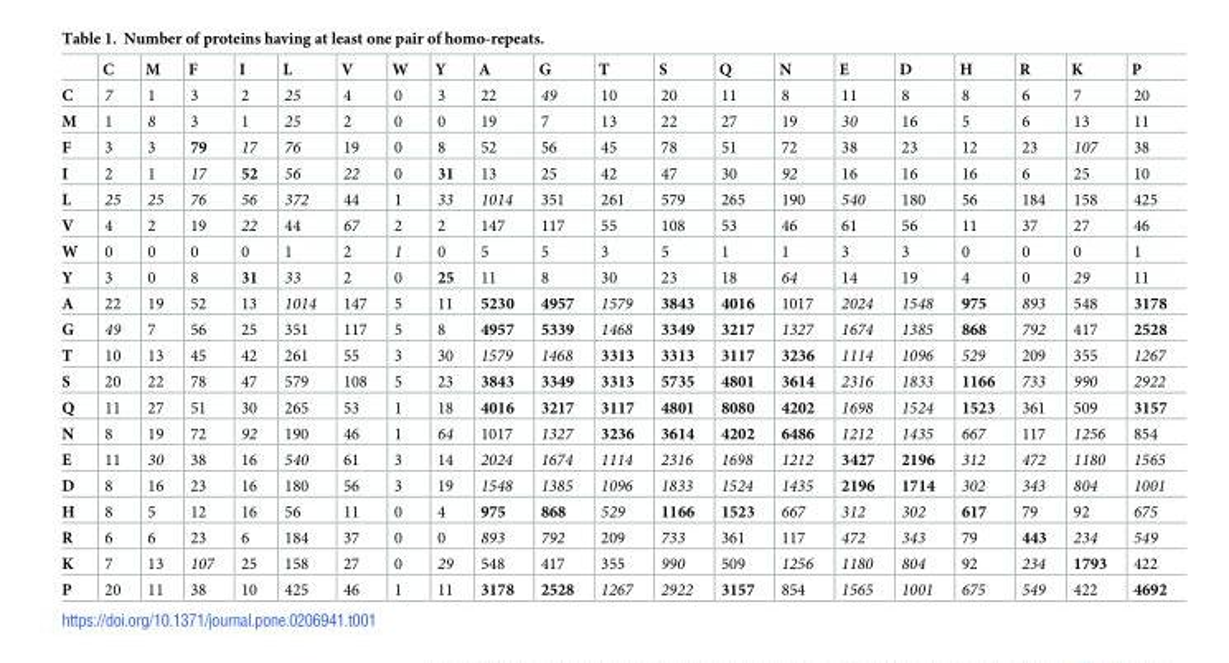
<table><thead><tr><td></td><td>C</td><td>M</td><td>F</td><td>I</td><td>L</td><td>V</td><td>W</td><td>Y</td><td>A</td><td>G</td><td>T</td><td>S</td><td>Q</td><td>N</td><td>E</td><td>D</td><td>H</td><td>R</td><td>K</td><td>P</td></tr></thead><tbody><tr><td>C</td><td>7</td><td>1</td><td>3</td><td>2</td><td>25</td><td>4</td><td>0</td><td>3</td><td>22</td><td>49</td><td>10</td><td>20</td><td>11</td><td>8</td><td>11</td><td>8</td><td>8</td><td>6</td><td>7</td><td>20</td></tr><tr><td>M</td><td>1</td><td>8</td><td>3</td><td>1</td><td>25</td><td>2</td><td>0</td><td>0</td><td>19</td><td>7</td><td>13</td><td>22</td><td>27</td><td>19</td><td>30</td><td>16</td><td>5</td><td>6</td><td>13</td><td>11</td></tr><tr><td>F</td><td>3</td><td>3</td><td>79</td><td>17</td><td>76</td><td>19</td><td>0</td><td>8</td><td>52</td><td>56</td><td>45</td><td>78</td><td>51</td><td>72</td><td>38</td><td>23</td><td>12</td><td>23</td><td>107</td><td>38</td></tr><tr><td>I</td><td>2</td><td>1</td><td>17</td><td>52</td><td>56</td><td>22</td><td>0</td><td>31</td><td>13</td><td>25</td><td>42</td><td>47</td><td>30</td><td>92</td><td>16</td><td>16</td><td>16</td><td>6</td><td>25</td><td>10</td></tr><tr><td>L</td><td>25</td><td>25</td><td>76</td><td>56</td><td>372</td><td>44</td><td>1</td><td>33</td><td>1014</td><td>351</td><td>261</td><td>579</td><td>265</td><td>190</td><td>540</td><td>180</td><td>56</td><td>184</td><td>158</td><td>425</td></tr><tr><td>V</td><td>4</td><td>2</td><td>19</td><td>22</td><td>44</td><td>67</td><td>2</td><td>2</td><td>147</td><td>117</td><td>55</td><td>108</td><td>53</td><td>46</td><td>61</td><td>56</td><td>11</td><td>37</td><td>27</td><td>46</td></tr><tr><td>W</td><td>0</td><td>0</td><td>0</td><td>0</td><td>1</td><td>2</td><td>1</td><td>0</td><td>5</td><td>5</td><td>3</td><td>5</td><td>1</td><td>1</td><td>3</td><td>3</td><td>0</td><td>0</td><td>0</td><td>1</td></tr><tr><td>Y</td><td>3</td><td>0</td><td>8</td><td>31</td><td>33</td><td>2</td><td>0</td><td>25</td><td>11</td><td>8</td><td>30</td><td>23</td><td>18</td><td>64</td><td>14</td><td>19</td><td>4</td><td>0</td><td>29</td><td>11</td></tr><tr><td>A</td><td>22</td><td>19</td><td>52</td><td>13</td><td>1014</td><td>147</td><td>5</td><td>11</td><td>5230</td><td>4957</td><td>1579</td><td>3843</td><td>4016</td><td>1017</td><td>2024</td><td>1548</td><td>975</td><td>893</td><td>548</td><td>3178</td></tr><tr><td>G</td><td>49</td><td>7</td><td>56</td><td>25</td><td>351</td><td>117</td><td>5</td><td>8</td><td>4957</td><td>5339</td><td>1468</td><td>3349</td><td>3217</td><td>1327</td><td>1674</td><td>1385</td><td>868</td><td>792</td><td>417</td><td>2528</td></tr><tr><td>T</td><td>10</td><td>13</td><td>45</td><td>42</td><td>261</td><td>55</td><td>3</td><td>30</td><td>1579</td><td>1468</td><td>3313</td><td>3313</td><td>3117</td><td>3236</td><td>1114</td><td>1096</td><td>529</td><td>209</td><td>355</td><td>1267</td></tr><tr><td>S</td><td>20</td><td>22</td><td>78</td><td>47</td><td>579</td><td>108</td><td>5</td><td>23</td><td>3843</td><td>3349</td><td>3313</td><td>5735</td><td>4801</td><td>3614</td><td>2316</td><td>1833</td><td>1166</td><td>733</td><td>990</td><td>2922</td></tr><tr><td>Q</td><td>11</td><td>27</td><td>51</td><td>30</td><td>265</td><td>53</td><td>1</td><td>18</td><td>4016</td><td>3217</td><td>3117</td><td>4801</td><td>8080</td><td>4202</td><td>1698</td><td>1524</td><td>1523</td><td>361</td><td>509</td><td>3157</td></tr><tr><td>N</td><td>8</td><td>19</td><td>72</td><td>92</td><td>190</td><td>46</td><td>1</td><td>64</td><td>1017</td><td>1327</td><td>3236</td><td>3614</td><td>4202</td><td>6486</td><td>1212</td><td>1435</td><td>667</td><td>117</td><td>1256</td><td>854</td></tr><tr><td>E</td><td>11</td><td>30</td><td>38</td><td>16</td><td>540</td><td>61</td><td>3</td><td>14</td><td>2024</td><td>1674</td><td>1114</td><td>2316</td><td>1698</td><td>1212</td><td>3427</td><td>2196</td><td>312</td><td>472</td><td>1180</td><td>1565</td></tr><tr><td>D</td><td>8</td><td>16</td><td>23</td><td>16</td><td>180</td><td>56</td><td>3</td><td>19</td><td>1548</td><td>1385</td><td>1096</td><td>1833</td><td>1524</td><td>1435</td><td>2196</td><td>1714</td><td>302</td><td>343</td><td>804</td><td>1001</td></tr><tr><td>H</td><td>8</td><td>5</td><td>12</td><td>16</td><td>56</td><td>11</td><td>0</td><td>4</td><td>975</td><td>868</td><td>529</td><td>1166</td><td>1523</td><td>667</td><td>312</td><td>302</td><td>617</td><td>79</td><td>92</td><td>675</td></tr><tr><td>R</td><td>6</td><td>6</td><td>23</td><td>6</td><td>184</td><td>37</td><td>0</td><td>0</td><td>893</td><td>792</td><td>209</td><td>733</td><td>361</td><td>117</td><td>472</td><td>343</td><td>79</td><td>443</td><td>234</td><td>549</td></tr><tr><td>K</td><td>7</td><td>13</td><td>107</td><td>25</td><td>158</td><td>27</td><td>0</td><td>29</td><td>548</td><td>417</td><td>355</td><td>990</td><td>509</td><td>1256</td><td>1180</td><td>804</td><td>92</td><td>234</td><td>1793</td><td>422</td></tr><tr><td>P</td><td>20</td><td>11</td><td>38</td><td>10</td><td>425</td><td>46</td><td>1</td><td>11</td><td>3178</td><td>2528</td><td>1267</td><td>2922</td><td>3157</td><td>854</td><td>1565</td><td>1001</td><td>675</td><td>549</td><td>422</td><td>4692</td></tr></tbody></table>